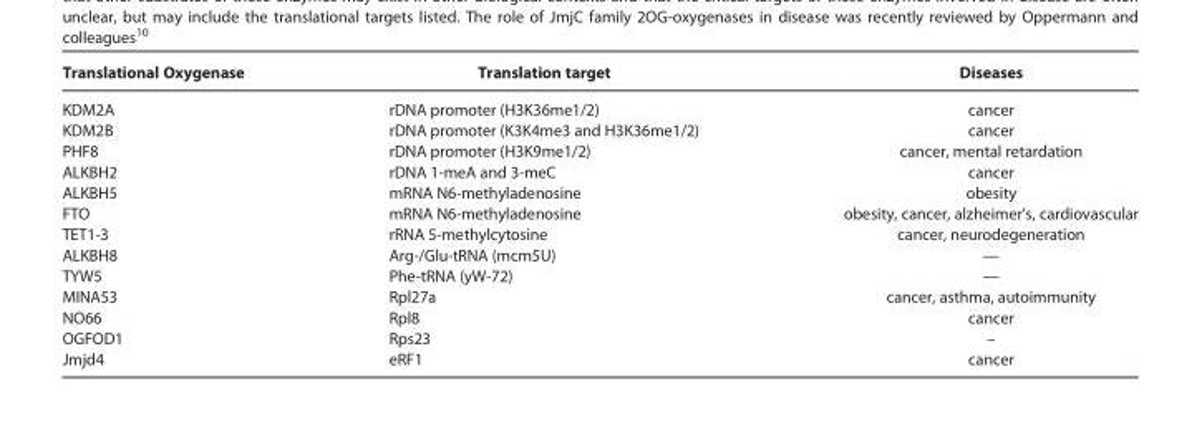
<table><thead><tr><td>Translational Oxygenase</td><td>Translation target</td><td>Diseases</td></tr></thead><tbody><tr><td>KDM2A</td><td>rDNA promoter (H3K36me1/2)</td><td>cancer</td></tr><tr><td>KDM2B</td><td>rDNA promoter (K3K4me3 and H3K36me1/2)</td><td>cancer</td></tr><tr><td>PHF8</td><td>rDNA promoter (H3K9me1/2)</td><td>cancer, mental retardation</td></tr><tr><td>ALKBH2</td><td>rDNA 1-meA and 3-meC</td><td>cancer</td></tr><tr><td>ALKBH5</td><td>mRNA N6-methyladenosine</td><td>obesity</td></tr><tr><td>FTO</td><td>mRNA N6-methyladenosine</td><td>obesity, cancer, alzheimer’s, cardiovascular</td></tr><tr><td>TET1-3</td><td>rRNA 5-methylcytosine</td><td>cancer, neurodegeneration</td></tr><tr><td>ALKBH8</td><td>Arg-/Glu-tRNA (mcm5U)</td><td>—</td></tr><tr><td>TYW5</td><td>Phe-tRNA (yW-72)</td><td>—</td></tr><tr><td>MINA53</td><td>Rpl27a</td><td>cancer, asthma, autoimmunity</td></tr><tr><td>NO66</td><td>Rpl8</td><td>cancer</td></tr><tr><td>OGFOD1</td><td>Rps23</td><td>–</td></tr><tr><td>Jmjd4</td><td>eRF1</td><td>cancer</td></tr></tbody></table>